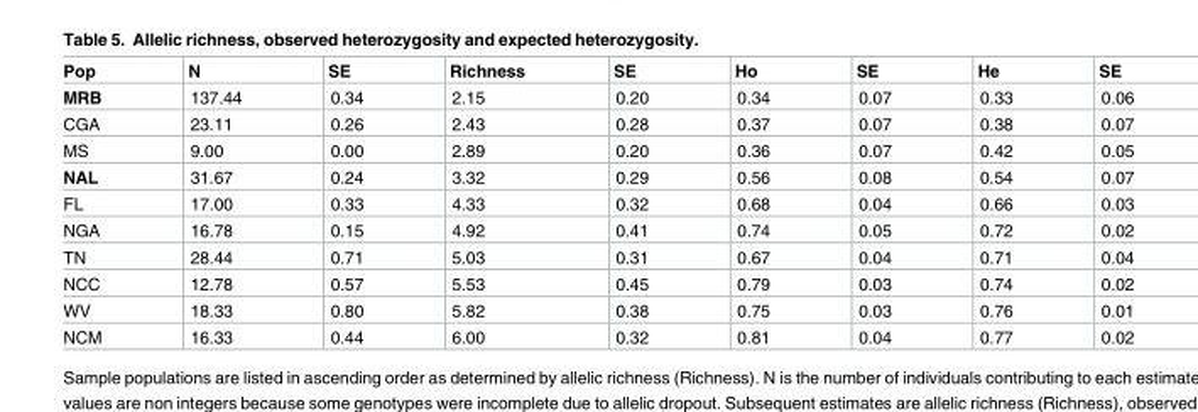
<table><thead><tr><td>Pop</td><td>N</td><td>SE</td><td>Richness</td><td>SE</td><td>Ho</td><td>SE</td><td>He</td><td>SE</td></tr></thead><tbody><tr><td>MRB</td><td>137.44</td><td>0.34</td><td>2.15</td><td>0.20</td><td>0.34</td><td>0.07</td><td>0.33</td><td>0.06</td></tr><tr><td>CGA</td><td>23.11</td><td>0.26</td><td>2.43</td><td>0.28</td><td>0.37</td><td>0.07</td><td>0.38</td><td>0.07</td></tr><tr><td>MS</td><td>9.00</td><td>0.00</td><td>2.89</td><td>0.20</td><td>0.36</td><td>0.07</td><td>0.42</td><td>0.05</td></tr><tr><td>NAL</td><td>31.67</td><td>0.24</td><td>3.32</td><td>0.29</td><td>0.56</td><td>0.08</td><td>0.54</td><td>0.07</td></tr><tr><td>FL</td><td>17.00</td><td>0.33</td><td>4.33</td><td>0.32</td><td>0.68</td><td>0.04</td><td>0.66</td><td>0.03</td></tr><tr><td>NGA</td><td>16.78</td><td>0.15</td><td>4.92</td><td>0.41</td><td>0.74</td><td>0.05</td><td>0.72</td><td>0.02</td></tr><tr><td>TN</td><td>28.44</td><td>0.71</td><td>5.03</td><td>0.31</td><td>0.67</td><td>0.04</td><td>0.71</td><td>0.04</td></tr><tr><td>NCC</td><td>12.78</td><td>0.57</td><td>5.53</td><td>0.45</td><td>0.79</td><td>0.03</td><td>0.74</td><td>0.02</td></tr><tr><td>WV</td><td>18.33</td><td>0.80</td><td>5.82</td><td>0.38</td><td>0.75</td><td>0.03</td><td>0.76</td><td>0.01</td></tr><tr><td>NCM</td><td>16.33</td><td>0.44</td><td>6.00</td><td>0.32</td><td>0.81</td><td>0.04</td><td>0.77</td><td>0.02</td></tr></tbody></table>